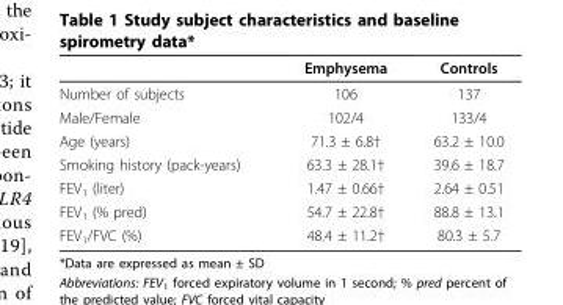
<table><thead><tr><td></td><td>Emphysema</td><td>Controls</td></tr></thead><tbody><tr><td>Number of subjects</td><td>106</td><td>137</td></tr><tr><td>Male/Female</td><td>102/4</td><td>133/4</td></tr><tr><td>Age (years)</td><td>71.3 ± 6.8†</td><td>63.2 ± 10.0</td></tr><tr><td>Smoking history (pack-years)</td><td>63.3 ± 28.1†</td><td>39.6 ± 18.7</td></tr><tr><td>FEV<sub>1</sub> (liter)</td><td>1.47 ± 0.66†</td><td>2.64 ± 0.51</td></tr><tr><td>FEV<sub>1</sub> (% pred)</td><td>54.7 ± 22.8†</td><td>88.8 ± 13.1</td></tr><tr><td>FEV<sub>1</sub>/FVC (%)</td><td>48.4 ± 11.2†</td><td>80.3 ± 5.7</td></tr></tbody></table>